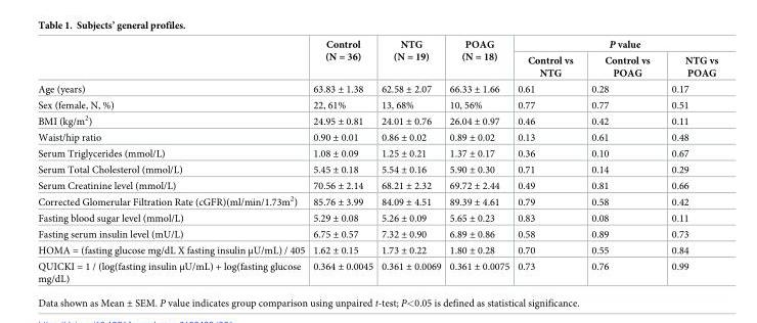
<table><thead><tr><td rowspan="2"></td><td rowspan="2">Control (N = 36)</td><td rowspan="2">NTG (N = 19)</td><td rowspan="2">POAG (N = 18)</td><td colspan="3">P value</td></tr><tr><td>Control vs NTG</td><td>Control vs POAG</td><td>NTG vs POAG</td></tr></thead><tbody><tr><td>Age (years)</td><td>63.83 ± 1.38</td><td>62.58 ± 2.07</td><td>66.33 ± 1.66</td><td>0.61</td><td>0.28</td><td>0.17</td></tr><tr><td>Sex (female, N, %)</td><td>22, 61%</td><td>13, 68%</td><td>10, 56%</td><td>0.77</td><td>0.77</td><td>0.51</td></tr><tr><td>BMI (kg/m<sup>2</sup>)</td><td>24.95 ± 0.81</td><td>24.01 ± 0.76</td><td>26.04 ± 0.97</td><td>0.46</td><td>0.42</td><td>0.11</td></tr><tr><td>Waist/hip ratio</td><td>0.90 ± 0.01</td><td>0.86 ± 0.02</td><td>0.89 ± 0.02</td><td>0.13</td><td>0.61</td><td>0.48</td></tr><tr><td>Serum Triglycerides (mmol/L)</td><td>1.08 ± 0.09</td><td>1.25 ± 0.21</td><td>1.37 ± 0.17</td><td>0.36</td><td>0.10</td><td>0.67</td></tr><tr><td>Serum Total Cholesterol (mmol/L)</td><td>5.45 ± 0.18</td><td>5.54 ± 0.16</td><td>5.90 ± 0.30</td><td>0.71</td><td>0.14</td><td>0.29</td></tr><tr><td>Serum Creatinine level (mmol/L)</td><td>70.56 ± 2.14</td><td>68.21 ± 2.32</td><td>69.72 ± 2.44</td><td>0.49</td><td>0.81</td><td>0.66</td></tr><tr><td>Corrected Glomerular Filtration Rate (cGFR)(ml/min/1.73m<sup>2</sup>)</td><td>85.76 ± 3.99</td><td>84.09 ± 4.51</td><td>89.39 ± 4.61</td><td>0.79</td><td>0.58</td><td>0.42</td></tr><tr><td>Fasting blood sugar level (mmol/L)</td><td>5.29 ± 0.08</td><td>5.26 ± 0.09</td><td>5.65 ± 0.23</td><td>0.83</td><td>0.08</td><td>0.11</td></tr><tr><td>Fasting serum insulin level (mU/L)</td><td>6.75 ± 0.57</td><td>7.32 ± 0.90</td><td>6.89 ± 0.86</td><td>0.58</td><td>0.89</td><td>0.73</td></tr><tr><td>HOMA = (fasting glucose mg/dL X fasting insulin μU/mL) / 405</td><td>1.62 ± 0.15</td><td>1.73 ± 0.22</td><td>1.80 ± 0.28</td><td>0.70</td><td>0.55</td><td>0.84</td></tr><tr><td>QUICKI = 1 / (log(fasting insulin μU/mL) + log(fasting glucose mg/dL)</td><td>0.364 ± 0.0045</td><td>0.361 ± 0.0069</td><td>0.361 ± 0.0075</td><td>0.73</td><td>0.76</td><td>0.99</td></tr></tbody></table>